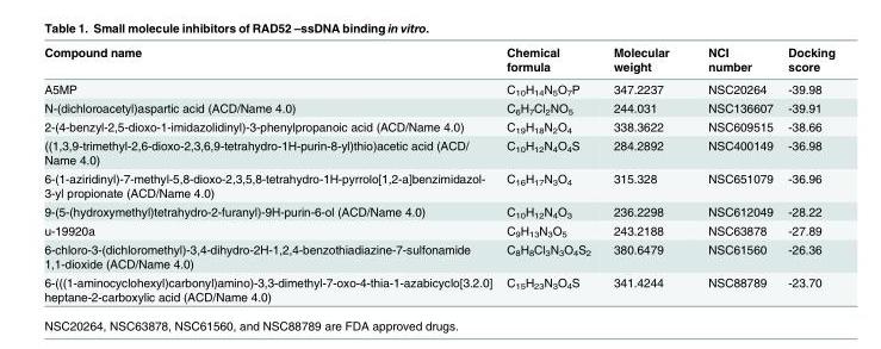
<table><thead><tr><td>Compound name</td><td>Chemical formula</td><td>Molecular weight</td><td>NCI number</td><td>Docking score</td></tr></thead><tbody><tr><td>A5MP</td><td>C<sub>10</sub>H<sub>14</sub>N<sub>5</sub>O<sub>7</sub>P</td><td>347.2237</td><td>NSC20264</td><td>-39.98</td></tr><tr><td>N-(dichloroacetyl)aspartic acid (ACD/Name 4.0)</td><td>C<sub>6</sub>H<sub>7</sub>Cl<sub>2</sub>NO<sub>5</sub></td><td>244.031</td><td>NSC136607</td><td>-39.91</td></tr><tr><td>2-(4-benzyl-2,5-dioxo-1-imidazolidinyl)-3-phenylpropanoic acid (ACD/Name 4.0)</td><td>C<sub>19</sub>H<sub>18</sub>N<sub>2</sub>O<sub>4</sub></td><td>338.3622</td><td>NSC609515</td><td>-38.66</td></tr><tr><td>((1,3,9-trimethyl-2,6-dioxo-2,3,6,9-tetrahydro-1H-purin-8-yl)thio)acetic acid (ACD/ Name 4.0)</td><td>C<sub>10</sub>H<sub>12</sub>N<sub>4</sub>O<sub>4</sub>S</td><td>284.2892</td><td>NSC400149</td><td>-36.98</td></tr><tr><td>6-(1-aziridinyl)-7-methyl-5,8-dioxo-2,3,5,8-tetrahydro-1H-pyrrolo[1,2-a]benzimidazol- 3-yl propionate (ACD/Name 4.0)</td><td>C<sub>16</sub>H<sub>17</sub>N<sub>3</sub>O<sub>4</sub></td><td>315.328</td><td>NSC651079</td><td>-36.96</td></tr><tr><td>9-(5-(hydroxymethyl)tetrahydro-2-furanyl)-9H-purin-6-ol (ACD/Name 4.0)</td><td>C<sub>10</sub>H<sub>12</sub>N<sub>4</sub>O<sub>3</sub></td><td>236.2298</td><td>NSC612049</td><td>-28.22</td></tr><tr><td>u-19920a</td><td>C<sub>9</sub>H<sub>13</sub>N<sub>3</sub>O<sub>5</sub></td><td>243.2188</td><td>NSC63878</td><td>-27.89</td></tr><tr><td>6-chloro-3-(dichloromethyl)-3,4-dihydro-2H-1,2,4-benzothiadiazine-7-sulfonamide 1,1-dioxide (ACD/Name 4.0)</td><td>C<sub>8</sub>H<sub>8</sub>Cl<sub>3</sub>N<sub>3</sub>O<sub>4</sub>S<sub>2</sub></td><td>380.6479</td><td>NSC61560</td><td>-26.36</td></tr><tr><td>6-(((1-aminocyclohexyl)carbonyl)amino)-3,3-dimethyl-7-oxo-4-thia-1-azabicyclo[3.2.0] heptane-2-carboxylic acid (ACD/Name 4.0)</td><td>C<sub>15</sub>H<sub>23</sub>N<sub>3</sub>O<sub>4</sub>S</td><td>341.4244</td><td>NSC88789</td><td>-23.70</td></tr></tbody></table>